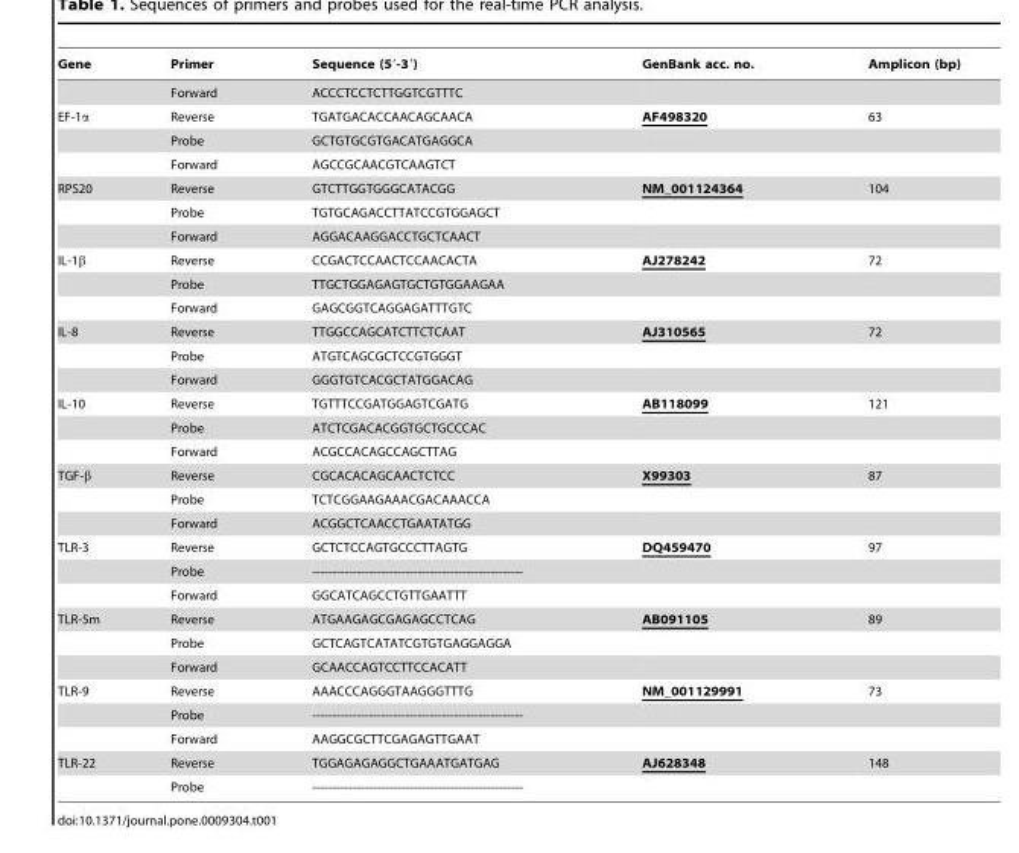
<table><thead><tr><td>Gene</td><td>Primer</td><td>Sequence (5′-3′)</td><td>GenBank acc. no.</td><td>Amplicon (bp)</td></tr></thead><tbody><tr><td></td><td>Forward</td><td>ACCCTCCTCTTGGTCGTTTC</td><td></td><td></td></tr><tr><td rowspan="3">EF-1α</td><td>Reverse</td><td>TGATGACACCAACAGCAACA</td><td>AF498320</td><td>63</td></tr><tr><td>Probe</td><td>GCTGTGCGTGACATGAGGCA</td><td></td><td></td></tr><tr><td>Forward</td><td>AGCCGCAACGTCAAGTCT</td><td></td><td></td></tr><tr><td rowspan="3">RPS20</td><td>Reverse</td><td>GTCTTGGTGGGCATACGG</td><td>NM_001124364</td><td>104</td></tr><tr><td>Probe</td><td>TGTGCAGACCTTATCCGTGGAGCT</td><td></td><td></td></tr><tr><td>Forward</td><td>AGGACAAGGACCTGCTCAACT</td><td></td><td></td></tr><tr><td rowspan="3">IL-1β</td><td>Reverse</td><td>CCGACTCCAACTCCAACACTA</td><td>AJ278242</td><td>72</td></tr><tr><td>Probe</td><td>TTGCTGGAGAGTGCTGTGGAAGAA</td><td></td><td></td></tr><tr><td>Forward</td><td>GAGCGGTCAGGAGATTTGTC</td><td></td><td></td></tr><tr><td rowspan="3">IL-8</td><td>Reverse</td><td>TTGGCCAGCATCTTCTCAAT</td><td>AJ310565</td><td>72</td></tr><tr><td>Probe</td><td>ATGTCAGCGCTCCGTGGGT</td><td></td><td></td></tr><tr><td>Forward</td><td>GGGTGTCACGCTATGGACAG</td><td></td><td></td></tr><tr><td rowspan="3">IL-10</td><td>Reverse</td><td>TGTTTCCGATGGAGTCGATG</td><td>AB118099</td><td>121</td></tr><tr><td>Probe</td><td>ATCTCGACACGGTGCTGCCCAC</td><td></td><td></td></tr><tr><td>Forward</td><td>ACGCCACAGCCAGCTTAG</td><td></td><td></td></tr><tr><td rowspan="3">TGF-β</td><td>Reverse</td><td>CGCACACAGCAACTCTCC</td><td>X99303</td><td>87</td></tr><tr><td>Probe</td><td>TCTCGGAAGAAACGACAAACCA</td><td></td><td></td></tr><tr><td>Forward</td><td>ACGGCTCAACCTGAATATGG</td><td></td><td></td></tr><tr><td rowspan="3">TLR-3</td><td>Reverse</td><td>GCTCTCCAGTGCCCTTAGTG</td><td>DQ459470</td><td>97</td></tr><tr><td>Probe</td><td>----------------------------------------------------</td><td></td><td></td></tr><tr><td>Forward</td><td>GGCATCAGCCTGTTGAATTT</td><td></td><td></td></tr><tr><td rowspan="3">TLR-5m</td><td>Reverse</td><td>ATGAAGAGCGAGAGCCTCAG</td><td>AB091105</td><td>89</td></tr><tr><td>Probe</td><td>GCTCAGTCATATCGTGTGAGGAGGA</td><td></td><td></td></tr><tr><td>Forward</td><td>GCAACCAGTCCTTCCACATT</td><td></td><td></td></tr><tr><td rowspan="3">TLR-9</td><td>Reverse</td><td>AAACCCAGGGTAAGGGTTTG</td><td>NM_001129991</td><td>73</td></tr><tr><td>Probe</td><td>----------------------------------------------------</td><td></td><td></td></tr><tr><td>Forward</td><td>AAGGCGCTTCGAGAGTTGAAT</td><td></td><td></td></tr><tr><td rowspan="2">TLR-22</td><td>Reverse</td><td>TGGAGAGAGGCTGAAATGATGAG</td><td>AJ628348</td><td>148</td></tr><tr><td>Probe</td><td>----------------------------------------------------</td><td></td><td></td></tr></tbody></table>